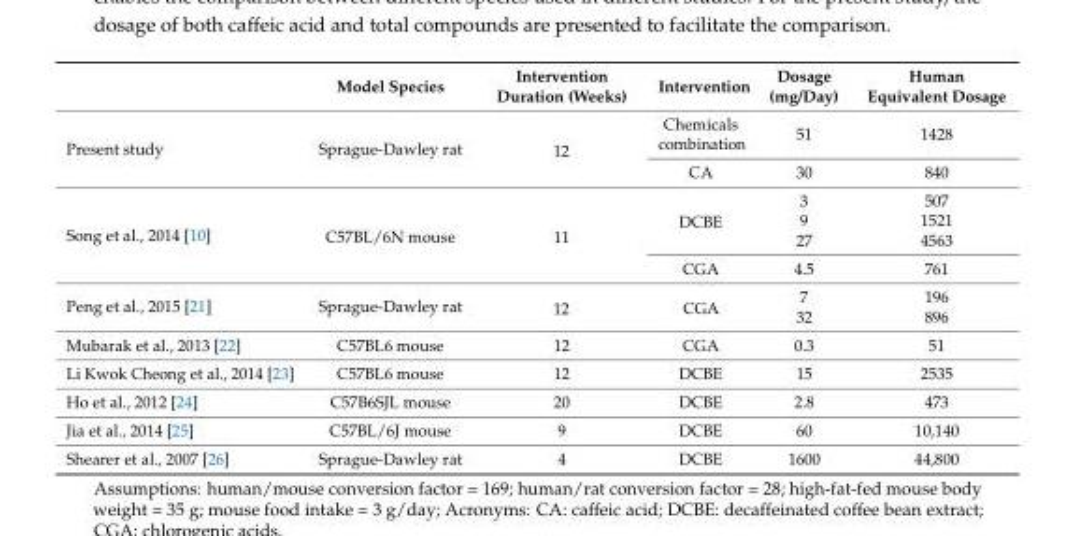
<table><thead><tr><td></td><td>Model Species</td><td>Intervention Duration (Weeks)</td><td>Intervention</td><td>Dosage (mg/Day)</td><td>Human Equivalent Dosage</td></tr></thead><tbody><tr><td rowspan="2">Present study</td><td rowspan="2">Sprague-Dawley rat</td><td rowspan="2">12</td><td>Chemicals combination</td><td>51</td><td>1428</td></tr><tr><td>CA</td><td>30</td><td>840</td></tr><tr><td rowspan="4">Song et al., 2014 [10]</td><td rowspan="4">C57BL/6N mouse</td><td rowspan="4">11</td><td rowspan="3">DCBE</td><td>3</td><td>507</td></tr><tr><td>9</td><td>1521</td></tr><tr><td>27</td><td>4563</td></tr><tr><td>CGA</td><td>4.5</td><td>761</td></tr><tr><td rowspan="2">Peng et al., 2015 [21]</td><td rowspan="2">Sprague-Dawley rat</td><td rowspan="2">12</td><td rowspan="2">CGA</td><td>7</td><td>196</td></tr><tr><td>32</td><td>896</td></tr><tr><td>Mubarak et al., 2013 [22]</td><td>C57BL6 mouse</td><td>12</td><td>CGA</td><td>0.3</td><td>51</td></tr><tr><td>Li Kwok Cheong et al., 2014 [23]</td><td>C57BL6 mouse</td><td>12</td><td>DCBE</td><td>15</td><td>2535</td></tr><tr><td>Ho et al., 2012 [24]</td><td>C57B6SJL mouse</td><td>20</td><td>DCBE</td><td>2.8</td><td>473</td></tr><tr><td>Jia et al., 2014 [25]</td><td>C57BL/6J mouse</td><td>9</td><td>DCBE</td><td>60</td><td>10,140</td></tr><tr><td>Shearer et al., 2007 [26]</td><td>Sprague-Dawley rat</td><td>4</td><td>DCBE</td><td>1600</td><td>44,800</td></tr></tbody></table>